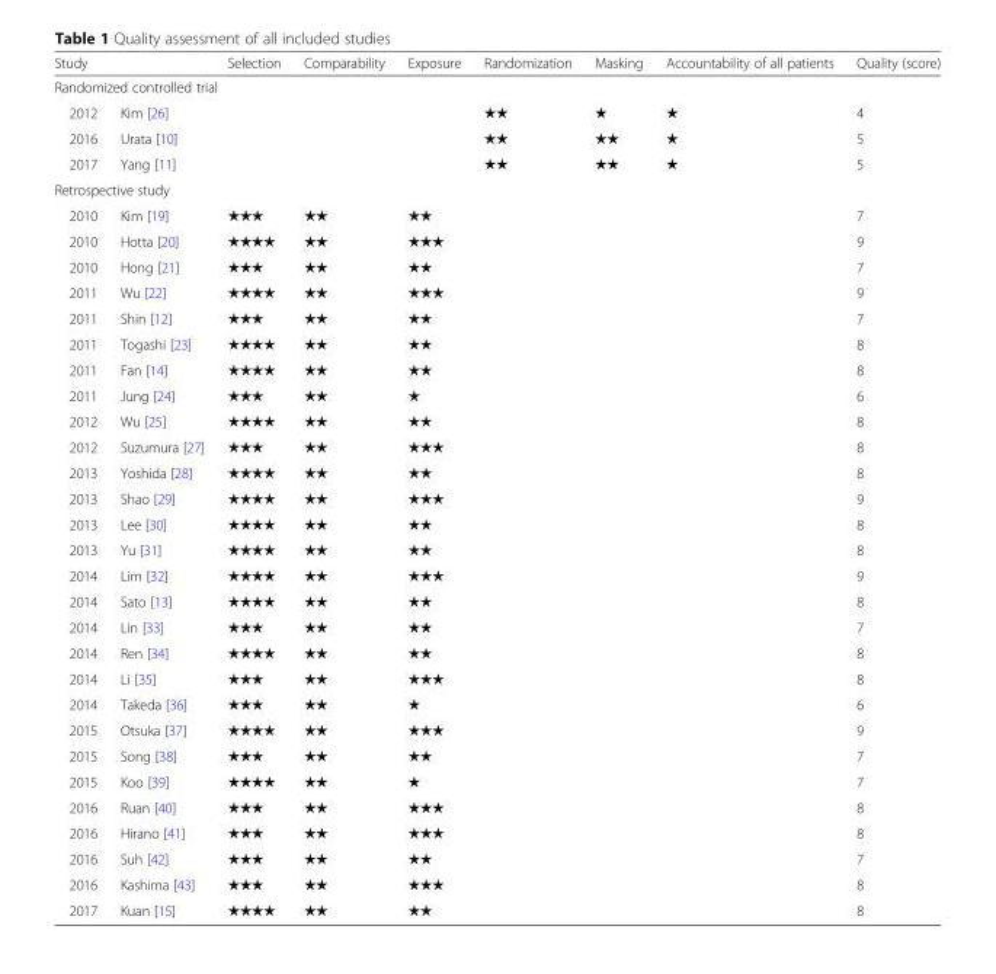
<table><thead><tr><td colspan="2">Study</td><td>Selection</td><td>Comparability</td><td>Exposure</td><td>Randomization</td><td>Masking</td><td>Accountability of all patients</td><td>Quality (score)</td></tr><tr><td colspan="9">Randomized controlled trial</td></tr><tr><td>2012</td><td>Kim [26]</td><td></td><td></td><td></td><td>★★</td><td>★</td><td>★</td><td>4</td></tr></thead><tbody><tr><td>2016</td><td>Urata [10]</td><td></td><td></td><td></td><td>★★</td><td>★★</td><td>★</td><td>5</td></tr><tr><td>2017</td><td>Yang [11]</td><td></td><td></td><td></td><td>★★</td><td>★★</td><td>★</td><td>5</td></tr><tr><td colspan="9">Retrospective study</td></tr><tr><td>2010</td><td>Kim [19]</td><td>★★★</td><td>★★</td><td>★★</td><td></td><td></td><td></td><td>7</td></tr><tr><td>2010</td><td>Hotta [20]</td><td>★★★★</td><td>★★</td><td>★★★</td><td></td><td></td><td></td><td>9</td></tr><tr><td>2010</td><td>Hong [21]</td><td>★★★</td><td>★★</td><td>★★</td><td></td><td></td><td></td><td>7</td></tr><tr><td>2011</td><td>Wu [22]</td><td>★★★★</td><td>★★</td><td>★★★</td><td></td><td></td><td></td><td>9</td></tr><tr><td>2011</td><td>Shin [12]</td><td>★★★</td><td>★★</td><td>★★</td><td></td><td></td><td></td><td>7</td></tr><tr><td>2011</td><td>Togashi [23]</td><td>★★★★</td><td>★★</td><td>★★</td><td></td><td></td><td></td><td>8</td></tr><tr><td>2011</td><td>Fan [14]</td><td>★★★★</td><td>★★</td><td>★★</td><td></td><td></td><td></td><td>8</td></tr><tr><td>2011</td><td>Jung [24]</td><td>★★★</td><td>★★</td><td>★</td><td></td><td></td><td></td><td>6</td></tr><tr><td>2012</td><td>Wu [25]</td><td>★★★★</td><td>★★</td><td>★★</td><td></td><td></td><td></td><td>8</td></tr><tr><td>2012</td><td>Suzumura [27]</td><td>★★★</td><td>★★</td><td>★★★</td><td></td><td></td><td></td><td>8</td></tr><tr><td>2013</td><td>Yoshida [28]</td><td>★★★★</td><td>★★</td><td>★★</td><td></td><td></td><td></td><td>8</td></tr><tr><td>2013</td><td>Shao [29]</td><td>★★★★</td><td>★★</td><td>★★★</td><td></td><td></td><td></td><td>9</td></tr><tr><td>2013</td><td>Lee [30]</td><td>★★★★</td><td>★★</td><td>★★</td><td></td><td></td><td></td><td>8</td></tr><tr><td>2013</td><td>Yu [31]</td><td>★★★★</td><td>★★</td><td>★★</td><td></td><td></td><td></td><td>8</td></tr><tr><td>2014</td><td>Lim [32]</td><td>★★★★</td><td>★★</td><td>★★★</td><td></td><td></td><td></td><td>9</td></tr><tr><td>2014</td><td>Sato [13]</td><td>★★★★</td><td>★★</td><td>★★</td><td></td><td></td><td></td><td>8</td></tr><tr><td>2014</td><td>Lin [33]</td><td>★★★</td><td>★★</td><td>★★</td><td></td><td></td><td></td><td>7</td></tr><tr><td>2014</td><td>Ren [34]</td><td>★★★★</td><td>★★</td><td>★★</td><td></td><td></td><td></td><td>8</td></tr><tr><td>2014</td><td>Li [35]</td><td>★★★</td><td>★★</td><td>★★★</td><td></td><td></td><td></td><td>8</td></tr><tr><td>2014</td><td>Takeda [36]</td><td>★★★</td><td>★★</td><td>★</td><td></td><td></td><td></td><td>6</td></tr><tr><td>2015</td><td>Otsuka [37]</td><td>★★★★</td><td>★★</td><td>★★★</td><td></td><td></td><td></td><td>9</td></tr><tr><td>2015</td><td>Song [38]</td><td>★★★</td><td>★★</td><td>★★</td><td></td><td></td><td></td><td>7</td></tr><tr><td>2015</td><td>Koo [39]</td><td>★★★★</td><td>★★</td><td>★</td><td></td><td></td><td></td><td>7</td></tr><tr><td>2016</td><td>Ruan [40]</td><td>★★★</td><td>★★</td><td>★★★</td><td></td><td></td><td></td><td>8</td></tr><tr><td>2016</td><td>Hirano [41]</td><td>★★★</td><td>★★</td><td>★★★</td><td></td><td></td><td></td><td>8</td></tr><tr><td>2016</td><td>Suh [42]</td><td>★★★</td><td>★★</td><td>★★</td><td></td><td></td><td></td><td>7</td></tr><tr><td>2016</td><td>Kashima [43]</td><td>★★★</td><td>★★</td><td>★★★</td><td></td><td></td><td></td><td>8</td></tr><tr><td>2017</td><td>Kuan [15]</td><td>★★★★</td><td>★★</td><td>★★</td><td></td><td></td><td></td><td>8</td></tr></tbody></table>